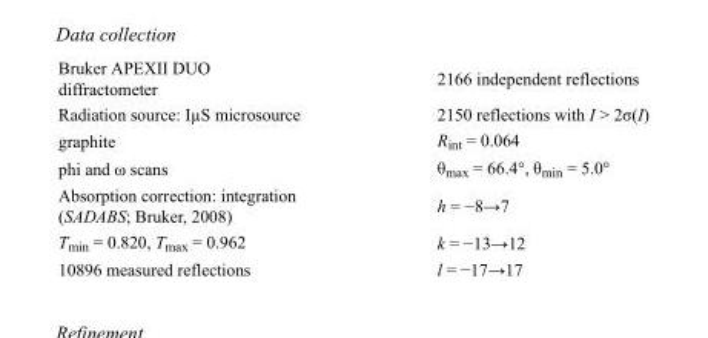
<table><tbody><tr><td>Bruker APEXII DUO diffractometer</td><td>2166 independent reflections</td></tr><tr><td>Radiation source: IµS microsource</td><td>2150 reflections with I &gt; 2σ(I)</td></tr><tr><td>graphite</td><td>R<sub>int</sub> = 0.064</td></tr><tr><td>phi and ω scans</td><td>θ<sub>max</sub> = 66.4°, θ<sub>min</sub> = 5.0°</td></tr><tr><td>Absorption correction: integration (SADABS; Bruker, 2008)</td><td>h = −8→7</td></tr><tr><td>T<sub>min</sub> = 0.820, T<sub>max</sub> = 0.962</td><td>k = −13→12</td></tr><tr><td>10896 measured reflections</td><td>l = −17→17</td></tr></tbody></table>